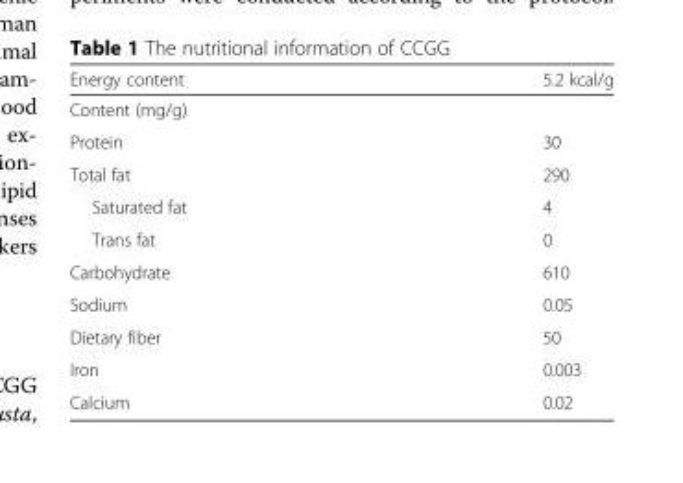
<table><thead><tr><td>Energy content</td><td>5.2 kcal/g</td></tr></thead><tbody><tr><td colspan="2">Content (mg/g)</td></tr><tr><td>Protein</td><td>30</td></tr><tr><td>Total fat</td><td>290</td></tr><tr><td>Saturated fat</td><td>4</td></tr><tr><td>Trans fat</td><td>0</td></tr><tr><td>Carbohydrate</td><td>610</td></tr><tr><td>Sodium</td><td>0.05</td></tr><tr><td>Dietary fiber</td><td>50</td></tr><tr><td>Iron</td><td>0.003</td></tr><tr><td>Calcium</td><td>0.02</td></tr></tbody></table>